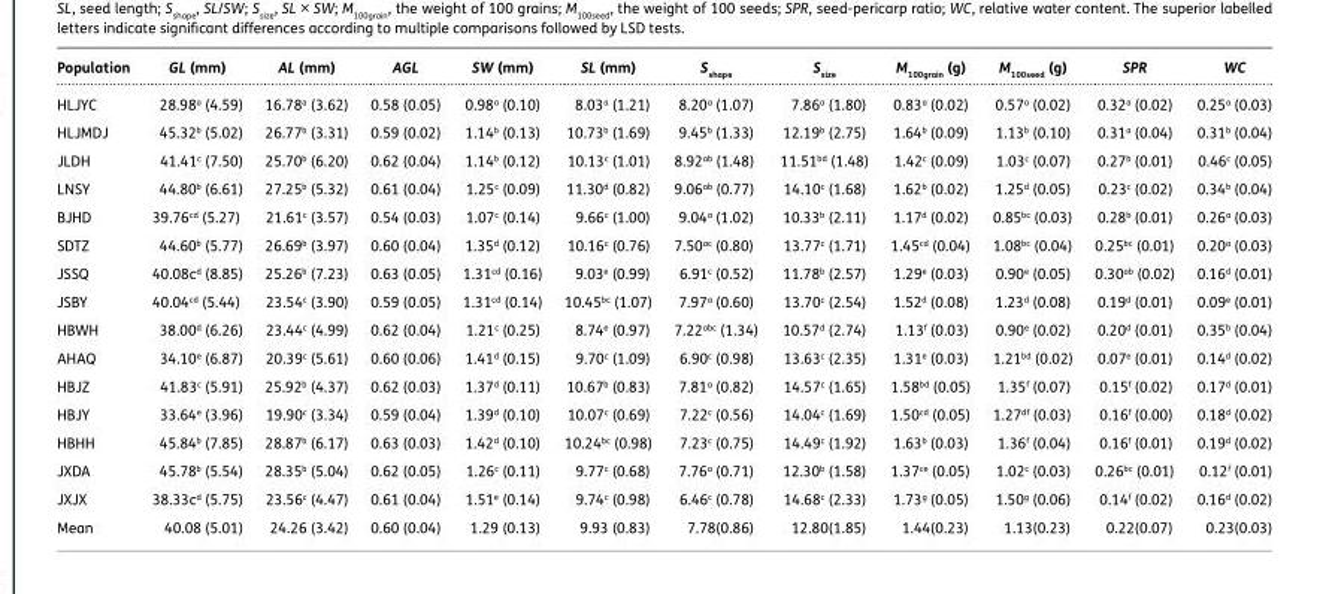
<table><thead><tr><td>Population</td><td>GL (mm)</td><td>AL (mm)</td><td>AGL</td><td>SW (mm)</td><td>SL (mm)</td><td>S<sub>shape</sub></td><td>S<sub>size</sub></td><td>M<sub>100grain</sub> (g)</td><td>M<sub>100seed</sub> (g)</td><td>SPR</td><td>WC</td></tr></thead><tbody><tr><td>HLJYC</td><td>28.98<sup>a</sup> (4.59)</td><td>16.78<sup>a</sup> (3.62)</td><td>0.58 (0.05)</td><td>0.98<sup>a</sup> (0.10)</td><td>8.03<sup>a</sup> (1.21)</td><td>8.20<sup>a</sup> (1.07)</td><td>7.86<sup>a</sup> (1.80)</td><td>0.83<sup>a</sup> (0.02)</td><td>0.57<sup>a</sup> (0.02)</td><td>0.32<sup>a</sup> (0.02)</td><td>0.25<sup>a</sup> (0.03)</td></tr><tr><td>HLJMDJ</td><td>45.32<sup>b</sup> (5.02)</td><td>26.77<sup>b</sup> (3.31)</td><td>0.59 (0.02)</td><td>1.14<sup>b</sup> (0.13)</td><td>10.73<sup>b</sup> (1.69)</td><td>9.45<sup>b</sup> (1.33)</td><td>12.19<sup>b</sup> (2.75)</td><td>1.64<sup>b</sup> (0.09)</td><td>1.13<sup>b</sup> (0.10)</td><td>0.31<sup>a</sup> (0.04)</td><td>0.31<sup>b</sup> (0.04)</td></tr><tr><td>JLDH</td><td>41.41<sup>c</sup> (7.50)</td><td>25.70<sup>b</sup> (6.20)</td><td>0.62 (0.04)</td><td>1.14<sup>b</sup> (0.12)</td><td>10.13<sup>c</sup> (1.01)</td><td>8.92<sup>ab</sup> (1.48)</td><td>11.51<sup>bd</sup> (1.48)</td><td>1.42<sup>c</sup> (0.09)</td><td>1.03<sup>c</sup> (0.07)</td><td>0.27<sup>b</sup> (0.01)</td><td>0.46<sup>c</sup> (0.05)</td></tr><tr><td>LNSY</td><td>44.80<sup>b</sup> (6.61)</td><td>27.25<sup>b</sup> (5.32)</td><td>0.61 (0.04)</td><td>1.25<sup>c</sup> (0.09)</td><td>11.30<sup>d</sup> (0.82)</td><td>9.06<sup>ab</sup> (0.77)</td><td>14.10<sup>c</sup> (1.68)</td><td>1.62<sup>b</sup> (0.02)</td><td>1.25<sup>d</sup> (0.05)</td><td>0.23<sup>c</sup> (0.02)</td><td>0.34<sup>b</sup> (0.04)</td></tr><tr><td>BJHD</td><td>39.76<sup>cd</sup> (5.27)</td><td>21.61<sup>c</sup> (3.57)</td><td>0.54 (0.03)</td><td>1.07<sup>c</sup> (0.14)</td><td>9.66<sup>c</sup> (1.00)</td><td>9.04<sup>a</sup> (1.02)</td><td>10.33<sup>b</sup> (2.11)</td><td>1.17<sup>d</sup> (0.02)</td><td>0.85<sup>bc</sup> (0.03)</td><td>0.28<sup>b</sup> (0.01)</td><td>0.26<sup>a</sup> (0.03)</td></tr><tr><td>SDTZ</td><td>44.60<sup>b</sup> (5.77)</td><td>26.69<sup>b</sup> (3.97)</td><td>0.60 (0.04)</td><td>1.35<sup>d</sup> (0.12)</td><td>10.16<sup>c</sup> (0.76)</td><td>7.50<sup>ac</sup> (0.80)</td><td>13.77<sup>c</sup> (1.71)</td><td>1.45<sup>cd</sup> (0.04)</td><td>1.08<sup>bc</sup> (0.04)</td><td>0.25<sup>bc</sup> (0.01)</td><td>0.20<sup>a</sup> (0.03)</td></tr><tr><td>JSSQ</td><td>40.08c<sup>d</sup> (8.85)</td><td>25.26<sup>b</sup> (7.23)</td><td>0.63 (0.05)</td><td>1.31<sup>cd</sup> (0.16)</td><td>9.03<sup>e</sup> (0.99)</td><td>6.91<sup>c</sup> (0.52)</td><td>11.78<sup>b</sup> (2.57)</td><td>1.29<sup>e</sup> (0.03)</td><td>0.90<sup>e</sup> (0.05)</td><td>0.30<sup>ab</sup> (0.02)</td><td>0.16<sup>d</sup> (0.01)</td></tr><tr><td>JSBY</td><td>40.04<sup>cd</sup> (5.44)</td><td>23.54<sup>c</sup> (3.90)</td><td>0.59 (0.05)</td><td>1.31<sup>cd</sup> (0.14)</td><td>10.45<sup>bc</sup> (1.07)</td><td>7.97<sup>a</sup> (0.60)</td><td>13.70<sup>c</sup> (2.54)</td><td>1.52<sup>d</sup> (0.08)</td><td>1.23<sup>d</sup> (0.08)</td><td>0.19<sup>d</sup> (0.01)</td><td>0.09<sup>e</sup> (0.01)</td></tr><tr><td>HBWH</td><td>38.00<sup>d</sup> (6.26)</td><td>23.44<sup>c</sup> (4.99)</td><td>0.62 (0.04)</td><td>1.21<sup>c</sup> (0.25)</td><td>8.74<sup>e</sup> (0.97)</td><td>7.22<sup>abc</sup> (1.34)</td><td>10.57<sup>d</sup> (2.74)</td><td>1.13<sup>f</sup> (0.03)</td><td>0.90<sup>e</sup> (0.02)</td><td>0.20<sup>d</sup> (0.01)</td><td>0.35<sup>b</sup> (0.04)</td></tr><tr><td>AHAQ</td><td>34.10<sup>e</sup> (6.87)</td><td>20.39<sup>c</sup> (5.61)</td><td>0.60 (0.06)</td><td>1.41<sup>d</sup> (0.15)</td><td>9.70<sup>c</sup> (1.09)</td><td>6.90<sup>c</sup> (0.98)</td><td>13.63<sup>c</sup> (2.35)</td><td>1.31<sup>e</sup> (0.03)</td><td>1.21<sup>bd</sup> (0.02)</td><td>0.07<sup>e</sup> (0.01)</td><td>0.14<sup>d</sup> (0.02)</td></tr><tr><td>HBJZ</td><td>41.83<sup>c</sup> (5.91)</td><td>25.92<sup>b</sup> (4.37)</td><td>0.62 (0.03)</td><td>1.37<sup>d</sup> (0.11)</td><td>10.67<sup>b</sup> (0.83)</td><td>7.81<sup>a</sup> (0.82)</td><td>14.57<sup>c</sup> (1.65)</td><td>1.58<sup>bd</sup> (0.05)</td><td>1.35<sup>f</sup> (0.07)</td><td>0.15<sup>f</sup> (0.02)</td><td>0.17<sup>d</sup> (0.01)</td></tr><tr><td>HBJY</td><td>33.64<sup>e</sup> (3.96)</td><td>19.90<sup>c</sup> (3.34)</td><td>0.59 (0.04)</td><td>1.39<sup>d</sup> (0.10)</td><td>10.07<sup>c</sup> (0.69)</td><td>7.22<sup>c</sup> (0.56)</td><td>14.04<sup>c</sup> (1.69)</td><td>1.50<sup>cd</sup> (0.05)</td><td>1.27<sup>df</sup> (0.03)</td><td>0.16<sup>f</sup> (0.00)</td><td>0.18<sup>d</sup> (0.02)</td></tr><tr><td>HBHH</td><td>45.84<sup>b</sup> (7.85)</td><td>28.87<sup>b</sup> (6.17)</td><td>0.63 (0.03)</td><td>1.42<sup>d</sup> (0.10)</td><td>10.24<sup>bc</sup> (0.98)</td><td>7.23<sup>c</sup> (0.75)</td><td>14.49<sup>c</sup> (1.92)</td><td>1.63<sup>b</sup> (0.03)</td><td>1.36<sup>f</sup> (0.04)</td><td>0.16<sup>f</sup> (0.01)</td><td>0.19<sup>d</sup> (0.02)</td></tr><tr><td>JXDA</td><td>45.78<sup>b</sup> (5.54)</td><td>28.35<sup>b</sup> (5.04)</td><td>0.62 (0.05)</td><td>1.26<sup>c</sup> (0.11)</td><td>9.77<sup>c</sup> (0.68)</td><td>7.76<sup>a</sup> (0.71)</td><td>12.30<sup>b</sup> (1.58)</td><td>1.37<sup>ce</sup> (0.05)</td><td>1.02<sup>c</sup> (0.03)</td><td>0.26<sup>bc</sup> (0.01)</td><td>0.12<sup>f</sup> (0.01)</td></tr><tr><td>JXJX</td><td>38.33c<sup>d</sup> (5.75)</td><td>23.56<sup>c</sup> (4.47)</td><td>0.61 (0.04)</td><td>1.51<sup>e</sup> (0.14)</td><td>9.74<sup>c</sup> (0.98)</td><td>6.46<sup>c</sup> (0.78)</td><td>14.68<sup>c</sup> (2.33)</td><td>1.73<sup>g</sup> (0.05)</td><td>1.50<sup>g</sup> (0.06)</td><td>0.14<sup>f</sup> (0.02)</td><td>0.16<sup>d</sup> (0.02)</td></tr><tr><td>Mean</td><td>40.08 (5.01)</td><td>24.26 (3.42)</td><td>0.60 (0.04)</td><td>1.29 (0.13)</td><td>9.93 (0.83)</td><td>7.78(0.86)</td><td>12.80(1.85)</td><td>1.44(0.23)</td><td>1.13(0.23)</td><td>0.22(0.07)</td><td>0.23(0.03)</td></tr></tbody></table>